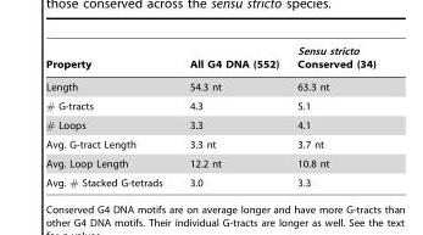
<table><thead><tr><td>Property</td><td>All G4 DNA (552)</td><td>Sensu stricto Conserved (34)</td></tr></thead><tbody><tr><td>Length</td><td>54.3 nt</td><td>63.3 nt</td></tr><tr><td># G-tracts</td><td>4.3</td><td>5.1</td></tr><tr><td># Loops</td><td>3.3</td><td>4.1</td></tr><tr><td>Avg. G-tract Length</td><td>3.3 nt</td><td>3.7 nt</td></tr><tr><td>Avg. Loop Length</td><td>12.2 nt</td><td>10.8 nt</td></tr><tr><td>Avg. # Stacked G-tetrads</td><td>3.0</td><td>3.3</td></tr></tbody></table>